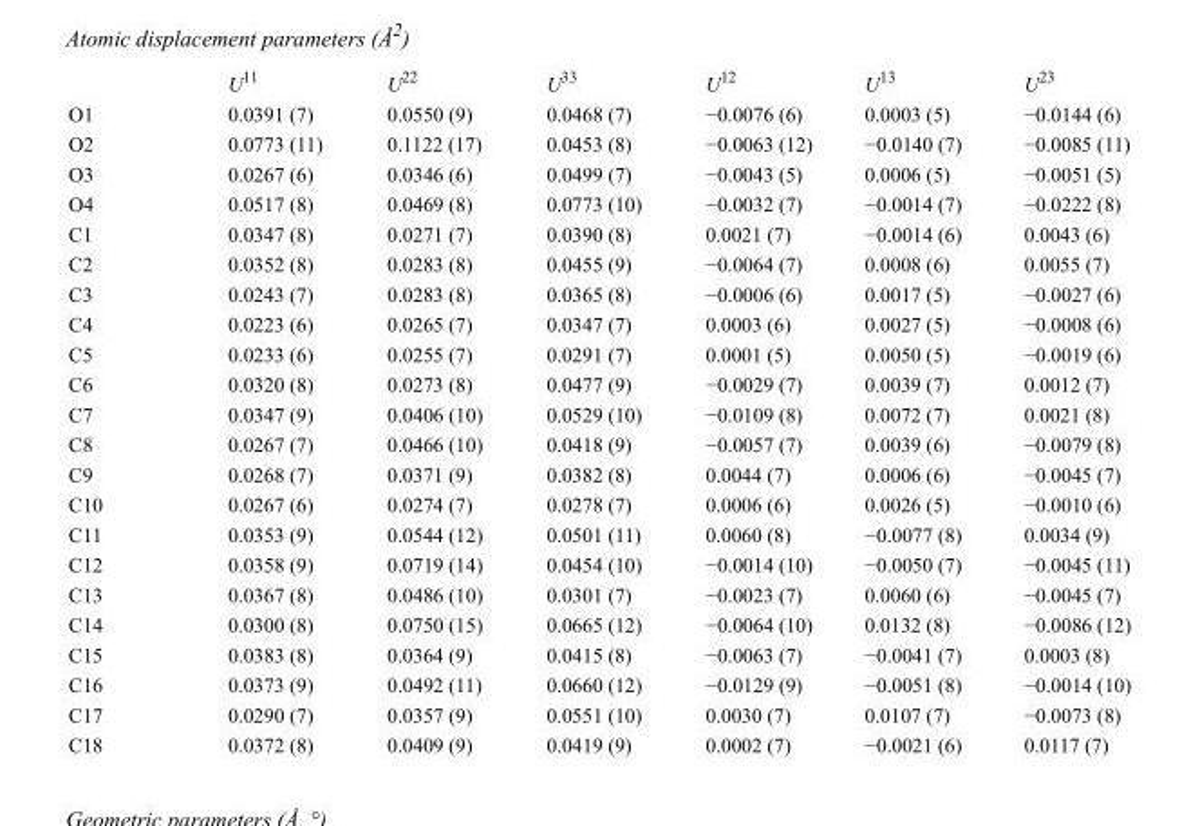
<table><thead><tr><td></td><td>U<sup>11</sup></td><td>U<sup>22</sup></td><td>U<sup>33</sup></td><td>U<sup>12</sup></td><td>U<sup>13</sup></td><td>U<sup>23</sup></td></tr></thead><tbody><tr><td>O1</td><td>0.0391 (7)</td><td>0.0550 (9)</td><td>0.0468 (7)</td><td>−0.0076 (6)</td><td>0.0003 (5)</td><td>−0.0144 (6)</td></tr><tr><td>O2</td><td>0.0773 (11)</td><td>0.1122 (17)</td><td>0.0453 (8)</td><td>−0.0063 (12)</td><td>−0.0140 (7)</td><td>−0.0085 (11)</td></tr><tr><td>O3</td><td>0.0267 (6)</td><td>0.0346 (6)</td><td>0.0499 (7)</td><td>−0.0043 (5)</td><td>0.0006 (5)</td><td>−0.0051 (5)</td></tr><tr><td>O4</td><td>0.0517 (8)</td><td>0.0469 (8)</td><td>0.0773 (10)</td><td>−0.0032 (7)</td><td>−0.0014 (7)</td><td>−0.0222 (8)</td></tr><tr><td>C1</td><td>0.0347 (8)</td><td>0.0271 (7)</td><td>0.0390 (8)</td><td>0.0021 (7)</td><td>−0.0014 (6)</td><td>0.0043 (6)</td></tr><tr><td>C2</td><td>0.0352 (8)</td><td>0.0283 (8)</td><td>0.0455 (9)</td><td>−0.0064 (7)</td><td>0.0008 (6)</td><td>0.0055 (7)</td></tr><tr><td>C3</td><td>0.0243 (7)</td><td>0.0283 (8)</td><td>0.0365 (8)</td><td>−0.0006 (6)</td><td>0.0017 (5)</td><td>−0.0027 (6)</td></tr><tr><td>C4</td><td>0.0223 (6)</td><td>0.0265 (7)</td><td>0.0347 (7)</td><td>0.0003 (6)</td><td>0.0027 (5)</td><td>−0.0008 (6)</td></tr><tr><td>C5</td><td>0.0233 (6)</td><td>0.0255 (7)</td><td>0.0291 (7)</td><td>0.0001 (5)</td><td>0.0050 (5)</td><td>−0.0019 (6)</td></tr><tr><td>C6</td><td>0.0320 (8)</td><td>0.0273 (8)</td><td>0.0477 (9)</td><td>−0.0029 (7)</td><td>0.0039 (7)</td><td>0.0012 (7)</td></tr><tr><td>C7</td><td>0.0347 (9)</td><td>0.0406 (10)</td><td>0.0529 (10)</td><td>−0.0109 (8)</td><td>0.0072 (7)</td><td>0.0021 (8)</td></tr><tr><td>C8</td><td>0.0267 (7)</td><td>0.0466 (10)</td><td>0.0418 (9)</td><td>−0.0057 (7)</td><td>0.0039 (6)</td><td>−0.0079 (8)</td></tr><tr><td>C9</td><td>0.0268 (7)</td><td>0.0371 (9)</td><td>0.0382 (8)</td><td>0.0044 (7)</td><td>0.0006 (6)</td><td>−0.0045 (7)</td></tr><tr><td>C10</td><td>0.0267 (6)</td><td>0.0274 (7)</td><td>0.0278 (7)</td><td>0.0006 (6)</td><td>0.0026 (5)</td><td>−0.0010 (6)</td></tr><tr><td>C11</td><td>0.0353 (9)</td><td>0.0544 (12)</td><td>0.0501 (11)</td><td>0.0060 (8)</td><td>−0.0077 (8)</td><td>0.0034 (9)</td></tr><tr><td>C12</td><td>0.0358 (9)</td><td>0.0719 (14)</td><td>0.0454 (10)</td><td>−0.0014 (10)</td><td>−0.0050 (7)</td><td>−0.0045 (11)</td></tr><tr><td>C13</td><td>0.0367 (8)</td><td>0.0486 (10)</td><td>0.0301 (7)</td><td>−0.0023 (7)</td><td>0.0060 (6)</td><td>−0.0045 (7)</td></tr><tr><td>C14</td><td>0.0300 (8)</td><td>0.0750 (15)</td><td>0.0665 (12)</td><td>−0.0064 (10)</td><td>0.0132 (8)</td><td>−0.0086 (12)</td></tr><tr><td>C15</td><td>0.0383 (8)</td><td>0.0364 (9)</td><td>0.0415 (8)</td><td>−0.0063 (7)</td><td>−0.0041 (7)</td><td>0.0003 (8)</td></tr><tr><td>C16</td><td>0.0373 (9)</td><td>0.0492 (11)</td><td>0.0660 (12)</td><td>−0.0129 (9)</td><td>−0.0051 (8)</td><td>−0.0014 (10)</td></tr><tr><td>C17</td><td>0.0290 (7)</td><td>0.0357 (9)</td><td>0.0551 (10)</td><td>0.0030 (7)</td><td>0.0107 (7)</td><td>−0.0073 (8)</td></tr><tr><td>C18</td><td>0.0372 (8)</td><td>0.0409 (9)</td><td>0.0419 (9)</td><td>0.0002 (7)</td><td>−0.0021 (6)</td><td>0.0117 (7)</td></tr></tbody></table>